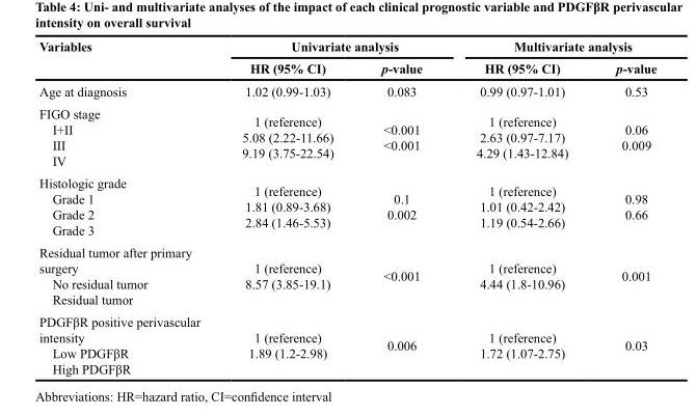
<table><thead><tr><td rowspan="2">Variables</td><td colspan="2">Univariate analysis</td><td colspan="2">Multivariate analysis</td></tr><tr><td>HR (95% CI)</td><td>p-value</td><td>HR (95% CI)</td><td>p-value</td></tr></thead><tbody><tr><td>Age at diagnosis</td><td>1.02 (0.99-1.03)</td><td>0.083</td><td>0.99 (0.97-1.01)</td><td>0.53</td></tr><tr><td>FIGO stage I+II III IV</td><td>1 (reference) 5.08 (2.22-11.66) 9.19 (3.75-22.54)</td><td>&lt;0.001 &lt;0.001</td><td>1 (reference) 2.63 (0.97-7.17) 4.29 (1.43-12.84)</td><td>0.06 0.009</td></tr><tr><td>Histologic grade Grade 1 Grade 2 Grade 3</td><td>1 (reference) 1.81 (0.89-3.68) 2.84 (1.46-5.53)</td><td>0.1 0.002</td><td>1 (reference) 1.01 (0.42-2.42) 1.19 (0.54-2.66)</td><td>0.98 0.66</td></tr><tr><td>Residual tumor after primary surgery No residual tumor Residual tumor</td><td>1 (reference) 8.57 (3.85-19.1)</td><td>&lt;0.001</td><td>1 (reference) 4.44 (1.8-10.96)</td><td>0.001</td></tr><tr><td>PDGFβR positive perivascular intensity Low PDGFβR High PDGFβR</td><td>1 (reference) 1.89 (1.2-2.98)</td><td>0.006</td><td>1 (reference) 1.72 (1.07-2.75)</td><td>0.03</td></tr></tbody></table>